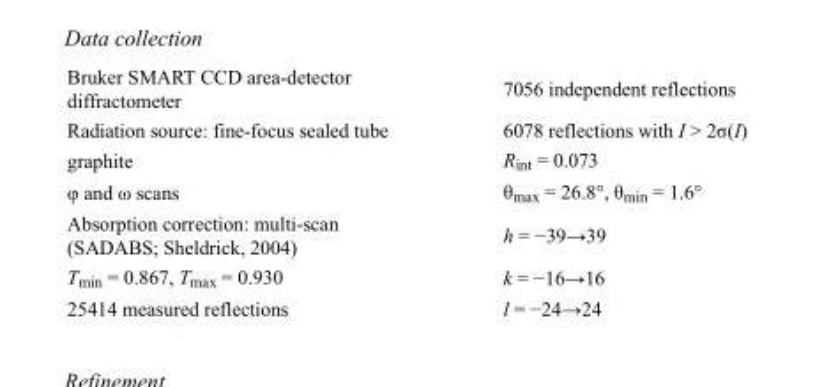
<table><tbody><tr><td>Bruker SMART CCD area-detector diffractometer</td><td>7056 independent reflections</td></tr><tr><td>Radiation source: fine-focus sealed tube</td><td>6078 reflections with I &gt; 2σ(I)</td></tr><tr><td>graphite</td><td>R<sub>int</sub> = 0.073</td></tr><tr><td>φ and ω scans</td><td>θ<sub>max</sub> = 26.8°, θ<sub>min</sub> = 1.6°</td></tr><tr><td>Absorption correction: multi-scan (SADABS; Sheldrick, 2004)</td><td>h = −39→39</td></tr><tr><td>T<sub>min</sub> = 0.867, T<sub>max</sub> = 0.930</td><td>k = −16→16</td></tr><tr><td>25414 measured reflections</td><td>l = −24→24</td></tr></tbody></table>